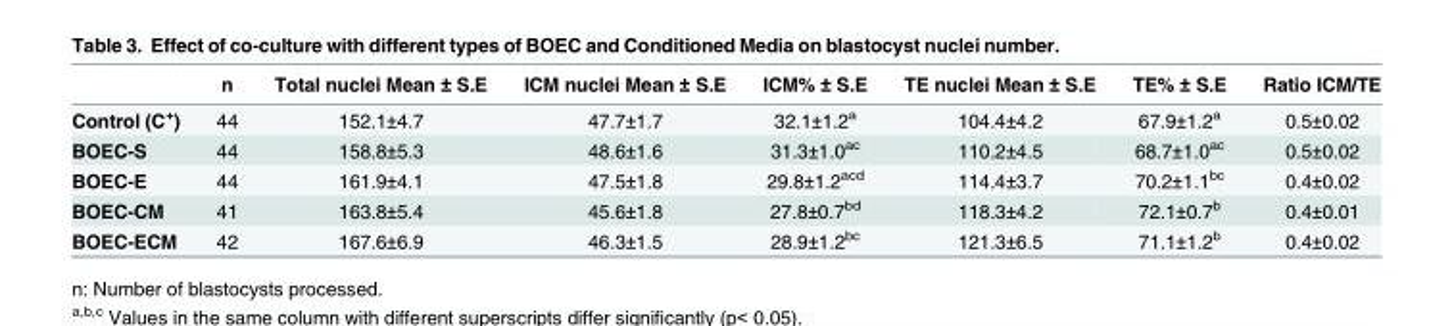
<table><thead><tr><td></td><td>n</td><td>Total nuclei Mean ± S.E</td><td>ICM nuclei Mean ± S.E</td><td>ICM% ± S.E</td><td>TE nuclei Mean ± S.E</td><td>TE% ± S.E</td><td>Ratio ICM/TE</td></tr></thead><tbody><tr><td>Control (C<sup>+</sup>)</td><td>44</td><td>152.1±4.7</td><td>47.7±1.7</td><td>32.1±1.2<sup>a</sup></td><td>104.4±4.2</td><td>67.9±1.2<sup>a</sup></td><td>0.5±0.02</td></tr><tr><td>BOEC-S</td><td>44</td><td>158.8±5.3</td><td>48.6±1.6</td><td>31.3±1.0<sup>ac</sup></td><td>110.2±4.5</td><td>68.7±1.0<sup>ac</sup></td><td>0.5±0.02</td></tr><tr><td>BOEC-E</td><td>44</td><td>161.9±4.1</td><td>47.5±1.8</td><td>29.8±1.2<sup>acd</sup></td><td>114.4±3.7</td><td>70.2±1.1<sup>bc</sup></td><td>0.4±0.02</td></tr><tr><td>BOEC-CM</td><td>41</td><td>163.8±5.4</td><td>45.6±1.8</td><td>27.8±0.7<sup>bd</sup></td><td>118.3±4.2</td><td>72.1±0.7<sup>b</sup></td><td>0.4±0.01</td></tr><tr><td>BOEC-ECM</td><td>42</td><td>167.6±6.9</td><td>46.3±1.5</td><td>28.9±1.2<sup>bc</sup></td><td>121.3±6.5</td><td>71.1±1.2<sup>b</sup></td><td>0.4±0.02</td></tr></tbody></table>